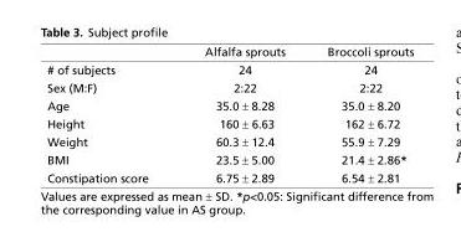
<table><thead><tr><td></td><td>Alfalfa sprouts</td><td>Broccoli sprouts</td></tr></thead><tbody><tr><td># of subjects</td><td>24</td><td>24</td></tr><tr><td>Sex (M:F)</td><td>2:22</td><td>2:22</td></tr><tr><td>Age</td><td>35.0 ± 8.28</td><td>35.0 ± 8.20</td></tr><tr><td>Height</td><td>160 ± 6.63</td><td>162 ± 6.72</td></tr><tr><td>Weight</td><td>60.3 ± 12.4</td><td>55.9 ± 7.29</td></tr><tr><td>BMI</td><td>23.5 ± 5.00</td><td>21.4 ± 2.86*</td></tr><tr><td>Constipation score</td><td>6.75 ± 2.89</td><td>6.54 ± 2.81</td></tr></tbody></table>